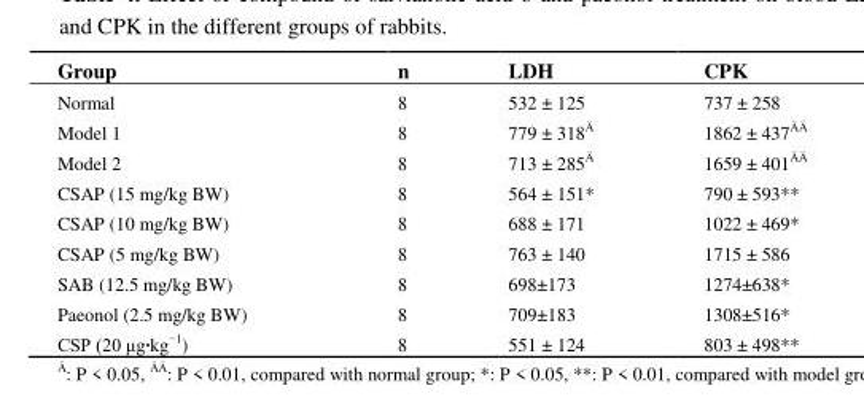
<table><thead><tr><td>Group</td><td>n</td><td>LDH</td><td>CPK</td></tr></thead><tbody><tr><td>Normal</td><td>8</td><td>532 ± 125</td><td>737 ± 258</td></tr><tr><td>Model 1</td><td>8</td><td>779 ± 318Ä</td><td>1862 ± 437ÄÄ</td></tr><tr><td>Model 2</td><td>8</td><td>713 ± 285Ä</td><td>1659 ± 401ÄÄ</td></tr><tr><td>CSAP (15 mg/kg BW)</td><td>8</td><td>564 ± 151*</td><td>790 ± 593**</td></tr><tr><td>CSAP (10 mg/kg BW)</td><td>8</td><td>688 ± 171</td><td>1022 ± 469*</td></tr><tr><td>CSAP (5 mg/kg BW)</td><td>8</td><td>763 ± 140</td><td>1715 ± 586</td></tr><tr><td>SAB (12.5 mg/kg BW)</td><td>8</td><td>698±173</td><td>1274±638*</td></tr><tr><td>Paeonol (2.5 mg/kg BW)</td><td>8</td><td>709±183</td><td>1308±516*</td></tr><tr><td>CSP (20 μg·kg<sup>−1</sup>)</td><td>8</td><td>551 ± 124</td><td>803 ± 498**</td></tr></tbody></table>